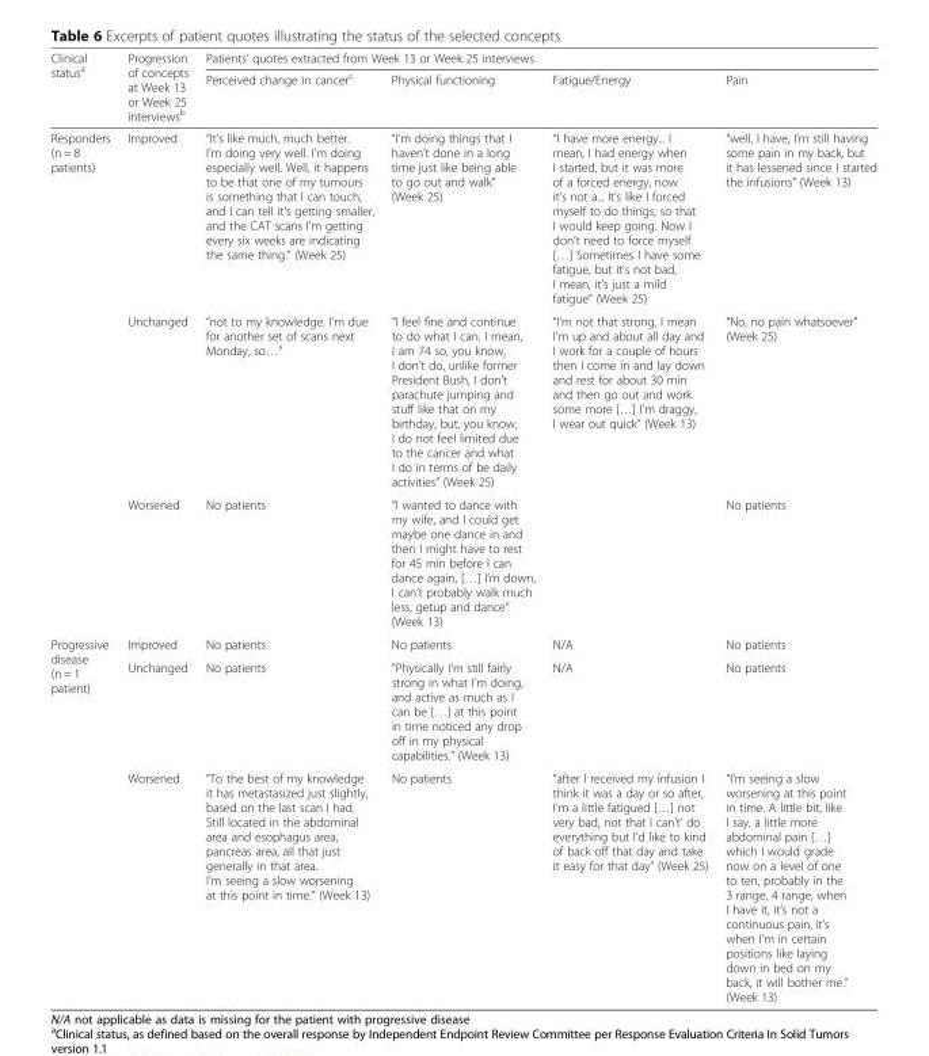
<table><thead><tr><td rowspan="2">Clinical status<sup>a</sup></td><td rowspan="2">Progression of concepts at Week 13 or Week 25 interviews<sup>b</sup></td><td colspan="4">Patients’ quotes extracted from Week 13 or Week 25 interviews</td></tr><tr><td>Perceived change in cancer<sup>c</sup></td><td>Physical functioning</td><td>Fatigue/Energy</td><td>Pain</td></tr></thead><tbody><tr><td rowspan="3">Responders (n = 8 patients)</td><td>Improved</td><td>“It’s like much, much better. I’m doing very well. I’m doing especially well. Well, it happens to be that one of my tumours is something that I can touch, and I can tell it’s getting smaller, and the CAT scans I’m getting every six weeks are indicating the same thing.” (Week 25)</td><td>“I’m doing things that I haven’t done in a long time just like being able to go out and walk” (Week 25)</td><td>“I have more energy... I mean, I had energy when I started, but it was more of a forced energy, now it’s not a... It’s like I forced myself to do things, so that I would keep going. Now I don’t need to force myself […] Sometimes I have some fatigue, but it’s not bad, I mean, it’s just a mild fatigue” (Week 25)</td><td>“well, I have, I’m still having some pain in my back, but it has lessened since I started the infusions” (Week 13)</td></tr><tr><td>Unchanged</td><td>“not to my knowledge. I’m due for another set of scans next Monday, so…”</td><td>“I feel fine and continue to do what I can. I mean, I am 74 so, you know, I don’t do, unlike former President Bush, I don’t parachute jumping and stuff like that on my birthday, but, you know, I do not feel limited due to the cancer and what I do in terms of be daily activities” (Week 25)</td><td>“I’m not that strong, I mean I’m up and about all day and I work for a couple of hours then I come in and lay down and rest for about 30 min and then go out and work some more […] I’m draggy, I wear out quick” (Week 13)</td><td>“No, no pain whatsoever” (Week 25)</td></tr><tr><td>Worsened</td><td>No patients</td><td>“I wanted to dance with my wife, and I could get maybe one dance in and then I might have to rest for 45 min before I can dance again, […] I’m down, I can’t probably walk much less, getup and dance” (Week 13)</td><td></td><td>No patients</td></tr><tr><td rowspan="3">Progressive disease (n = 1 patient)</td><td>Improved</td><td>No patients</td><td>No patients</td><td>N/A</td><td>No patients</td></tr><tr><td>Unchanged</td><td>No patients</td><td>“Physically I’m still fairly strong in what I’m doing, and active as much as I can be […] at this point in time noticed any drop off in my physical capabilities.” (Week 13)</td><td>N/A</td><td>No patients</td></tr><tr><td>Worsened</td><td>“To the best of my knowledge it has metastasized just slightly, based on the last scan I had. Still located in the abdominal area and esophagus area, pancreas area, all that just generally in that area. I’m seeing a slow worsening at this point in time.” (Week 13)</td><td>No patients</td><td>“after I received my infusion I think it was a day or so after, I’m a little fatigued […] not very bad, not that I can’t’ do everything but I’d like to kind of back off that day and take it easy for that day” (Week 25)</td><td>“I’m seeing a slow worsening at this point in time. A little bit, like I say, a little more abdominal pain […] which I would grade now on a level of one to ten, probably in the 3 range, 4 range, when I have it, it’s not a continuous pain, it’s when I’m in certain positions like laying down in bed on my back, it will bother me.” (Week 13)</td></tr></tbody></table>